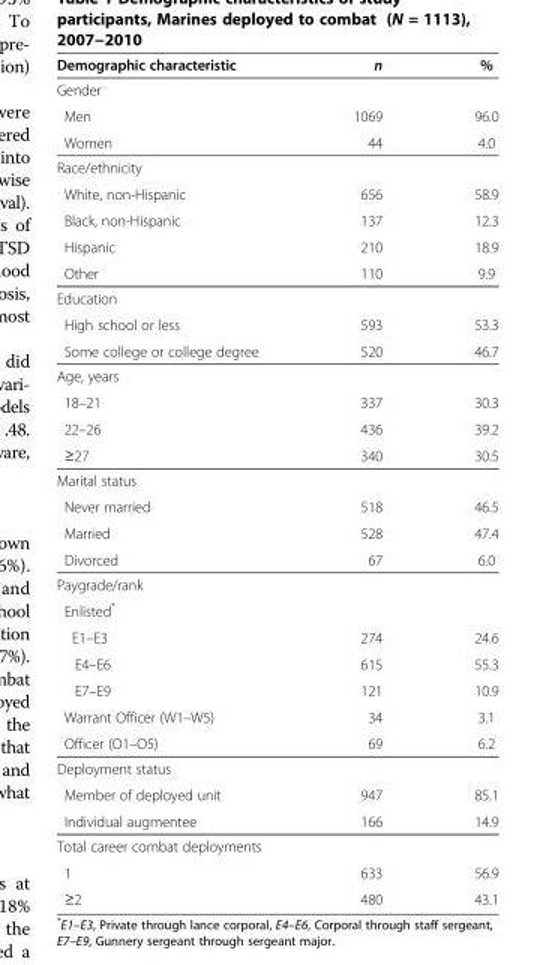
<table><thead><tr><td>Demographic characteristic</td><td>n</td><td>%</td></tr></thead><tbody><tr><td colspan="3">Gender</td></tr><tr><td>Men</td><td>1069</td><td>96.0</td></tr><tr><td>Women</td><td>44</td><td>4.0</td></tr><tr><td colspan="3">Race/ethnicity</td></tr><tr><td>White, non-Hispanic</td><td>656</td><td>58.9</td></tr><tr><td>Black, non-Hispanic</td><td>137</td><td>12.3</td></tr><tr><td>Hispanic</td><td>210</td><td>18.9</td></tr><tr><td>Other</td><td>110</td><td>9.9</td></tr><tr><td colspan="3">Education</td></tr><tr><td>High school or less</td><td>593</td><td>53.3</td></tr><tr><td>Some college or college degree</td><td>520</td><td>46.7</td></tr><tr><td colspan="3">Age, years</td></tr><tr><td>18–21</td><td>337</td><td>30.3</td></tr><tr><td>22–26</td><td>436</td><td>39.2</td></tr><tr><td>≥27</td><td>340</td><td>30.5</td></tr><tr><td colspan="3">Marital status</td></tr><tr><td>Never married</td><td>518</td><td>46.5</td></tr><tr><td>Married</td><td>528</td><td>47.4</td></tr><tr><td>Divorced</td><td>67</td><td>6.0</td></tr><tr><td colspan="3">Paygrade/rank</td></tr><tr><td colspan="3">Enlisted*</td></tr><tr><td>E1–E3</td><td>274</td><td>24.6</td></tr><tr><td>E4–E6</td><td>615</td><td>55.3</td></tr><tr><td>E7–E9</td><td>121</td><td>10.9</td></tr><tr><td>Warrant Officer (W1–W5)</td><td>34</td><td>3.1</td></tr><tr><td>Officer (O1–O5)</td><td>69</td><td>6.2</td></tr><tr><td colspan="3">Deployment status</td></tr><tr><td>Member of deployed unit</td><td>947</td><td>85.1</td></tr><tr><td>Individual augmentee</td><td>166</td><td>14.9</td></tr><tr><td colspan="3">Total career combat deployments</td></tr><tr><td>1</td><td>633</td><td>56.9</td></tr><tr><td>≥2</td><td>480</td><td>43.1</td></tr></tbody></table>